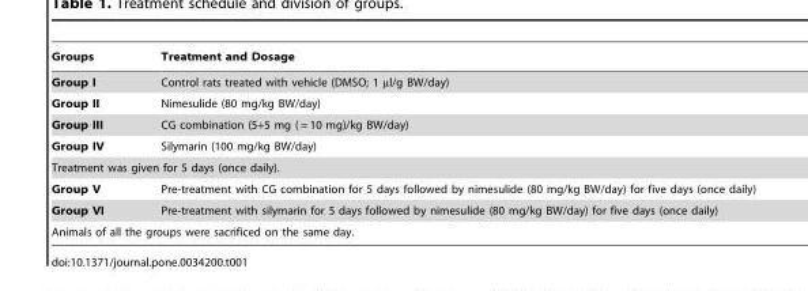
<table><thead><tr><td>Groups</td><td>Treatment and Dosage</td></tr></thead><tbody><tr><td>Group I</td><td>Control rats treated with vehicle (DMSO; 1 µl/g BW/day)</td></tr><tr><td>Group II</td><td>Nimesulide (80 mg/kg BW/day)</td></tr><tr><td>Group III</td><td>CG combination (5+5 mg ( = 10 mg)/kg BW/day)</td></tr><tr><td>Group IV</td><td>Silymarin (100 mg/kg BW/day)</td></tr><tr><td colspan="2">Treatment was given for 5 days (once daily).</td></tr><tr><td>Group V</td><td>Pre-treatment with CG combination for 5 days followed by nimesulide (80 mg/kg BW/day) for five days (once daily)</td></tr><tr><td>Group VI</td><td>Pre-treatment with silymarin for 5 days followed by nimesulide (80 mg/kg BW/day) for five days (once daily)</td></tr><tr><td colspan="2">Animals of all the groups were sacrificed on the same day.</td></tr></tbody></table>